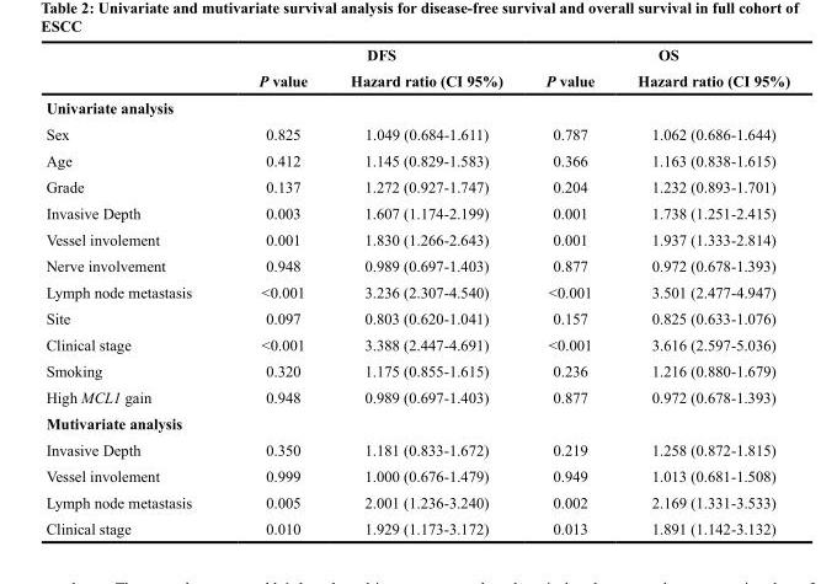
<table><thead><tr><td rowspan="2"></td><td colspan="2">DFS</td><td colspan="2">OS</td></tr><tr><td>P value</td><td>Hazard ratio (CI 95%)</td><td>P value</td><td>Hazard ratio (CI 95%)</td></tr></thead><tbody><tr><td colspan="5">Univariate analysis</td></tr><tr><td>Sex</td><td>0.825</td><td>1.049 (0.684-1.611)</td><td>0.787</td><td>1.062 (0.686-1.644)</td></tr><tr><td>Age</td><td>0.412</td><td>1.145 (0.829-1.583)</td><td>0.366</td><td>1.163 (0.838-1.615)</td></tr><tr><td>Grade</td><td>0.137</td><td>1.272 (0.927-1.747)</td><td>0.204</td><td>1.232 (0.893-1.701)</td></tr><tr><td>Invasive Depth</td><td>0.003</td><td>1.607 (1.174-2.199)</td><td>0.001</td><td>1.738 (1.251-2.415)</td></tr><tr><td>Vessel involement</td><td>0.001</td><td>1.830 (1.266-2.643)</td><td>0.001</td><td>1.937 (1.333-2.814)</td></tr><tr><td>Nerve involvement</td><td>0.948</td><td>0.989 (0.697-1.403)</td><td>0.877</td><td>0.972 (0.678-1.393)</td></tr><tr><td>Lymph node metastasis</td><td>&lt;0.001</td><td>3.236 (2.307-4.540)</td><td>&lt;0.001</td><td>3.501 (2.477-4.947)</td></tr><tr><td>Site</td><td>0.097</td><td>0.803 (0.620-1.041)</td><td>0.157</td><td>0.825 (0.633-1.076)</td></tr><tr><td>Clinical stage</td><td>&lt;0.001</td><td>3.388 (2.447-4.691)</td><td>&lt;0.001</td><td>3.616 (2.597-5.036)</td></tr><tr><td>Smoking</td><td>0.320</td><td>1.175 (0.855-1.615)</td><td>0.236</td><td>1.216 (0.880-1.679)</td></tr><tr><td>High MCL1 gain</td><td>0.948</td><td>0.989 (0.697-1.403)</td><td>0.877</td><td>0.972 (0.678-1.393)</td></tr><tr><td colspan="5">Mutivariate analysis</td></tr><tr><td>Invasive Depth</td><td>0.350</td><td>1.181 (0.833-1.672)</td><td>0.219</td><td>1.258 (0.872-1.815)</td></tr><tr><td>Vessel involement</td><td>0.999</td><td>1.000 (0.676-1.479)</td><td>0.949</td><td>1.013 (0.681-1.508)</td></tr><tr><td>Lymph node metastasis</td><td>0.005</td><td>2.001 (1.236-3.240)</td><td>0.002</td><td>2.169 (1.331-3.533)</td></tr><tr><td>Clinical stage</td><td>0.010</td><td>1.929 (1.173-3.172)</td><td>0.013</td><td>1.891 (1.142-3.132)</td></tr></tbody></table>